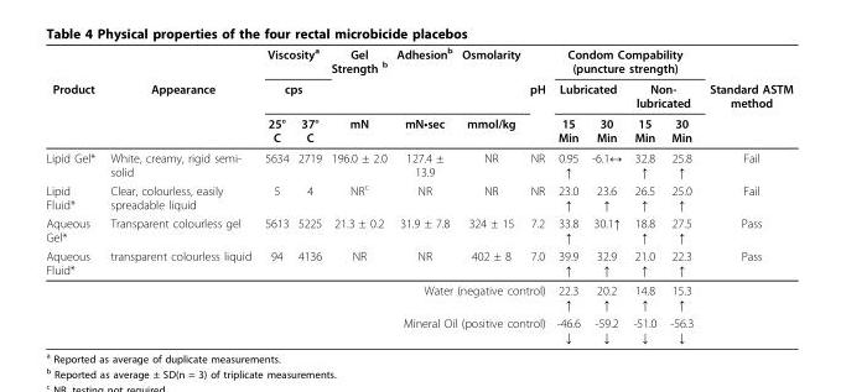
<table><thead><tr><td rowspan="3">Product</td><td rowspan="3">Appearance</td><td rowspan="2" colspan="2">Viscosity<sup>a</sup> cps</td><td rowspan="3">Gel Strength <sup>b</sup> mN</td><td rowspan="3">Adhesion<sup>b</sup> mN•sec</td><td rowspan="3">Osmolarity mmol/kg</td><td rowspan="3">pH</td><td colspan="4">Condom Compability (puncture strength)</td><td rowspan="3">Standard ASTM method</td></tr><tr><td colspan="2">Lubricated</td><td colspan="2">Non- lubricated</td></tr><tr><td>25° C</td><td>37° C</td><td>15 Min</td><td>30 Min</td><td>15 Min</td><td>30 Min</td></tr></thead><tbody><tr><td>Lipid Gel*</td><td>White, creamy, rigid semi- solid</td><td>5634</td><td>2719</td><td>196.0 ± 2.0</td><td>127.4 ± 13.9</td><td>NR</td><td>NR</td><td>0.95 ↑</td><td>-6.1↔</td><td>32.8 ↑</td><td>25.8 ↑</td><td>Fail</td></tr><tr><td>Lipid Fluid*</td><td>Clear, colourless, easily spreadable liquid</td><td>5</td><td>4</td><td>NR<sup>c</sup></td><td>NR</td><td>NR</td><td>NR</td><td>23.0 ↑</td><td>23.6 ↑</td><td>26.5 ↑</td><td>25.0 ↑</td><td>Fail</td></tr><tr><td>Aqueous Gel*</td><td>Transparent colourless gel</td><td>5613</td><td>5225</td><td>21.3 ± 0.2</td><td>31.9 ± 7.8</td><td>324 ± 15</td><td>7.2</td><td>33.8 ↑</td><td>30.1↑</td><td>18.8 ↑</td><td>27.5 ↑</td><td>Pass</td></tr><tr><td rowspan="3">Aqueous Fluid*</td><td>transparent colourless liquid</td><td>94</td><td>4136</td><td>NR</td><td>NR</td><td>402 ± 8</td><td>7.0</td><td>39.9 ↑</td><td>32.9 ↑</td><td>21.0 ↑</td><td>22.3 ↑</td><td>Pass</td></tr><tr><td></td><td></td><td></td><td colspan="4">Water (negative control)</td><td>22.3 ↑</td><td>20.2 ↑</td><td>14.8 ↑</td><td>15.3 ↑</td><td></td></tr><tr><td></td><td></td><td></td><td colspan="4">Mineral Oil (positive control)</td><td>-46.6 ↓</td><td>-59.2 ↓</td><td>-51.0 ↓</td><td>-56.3 ↓</td><td></td></tr></tbody></table>